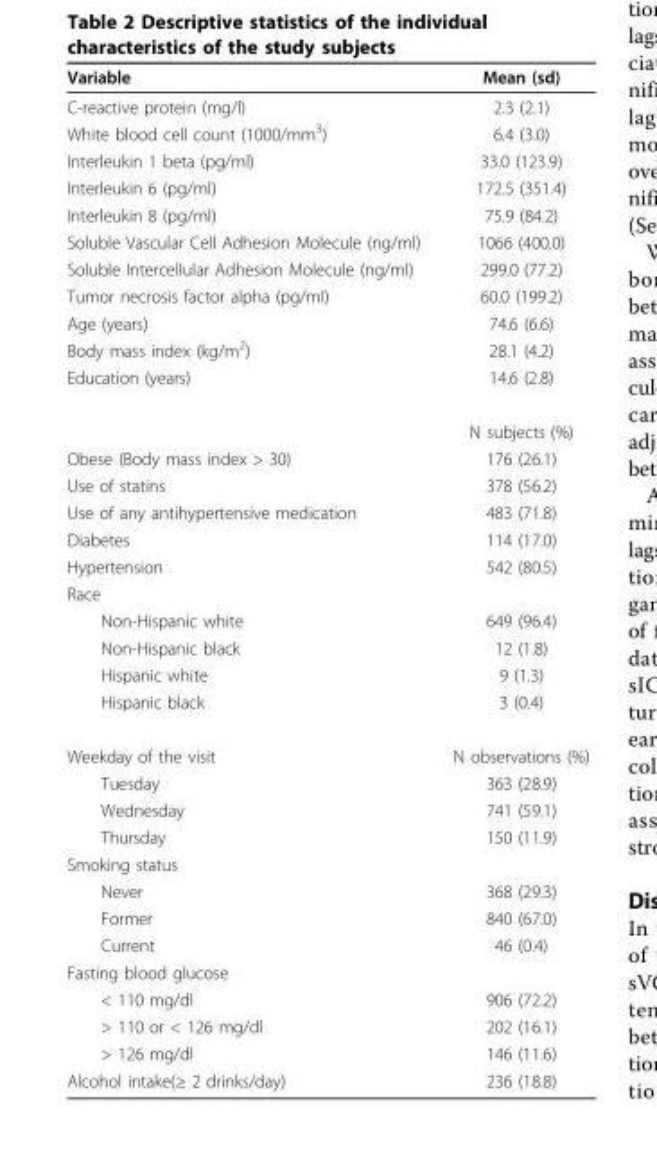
<table><thead><tr><td>Variable</td><td>Mean (sd)</td></tr></thead><tbody><tr><td>C-reactive protein (mg/l)</td><td>2.3 (2.1)</td></tr><tr><td>White blood cell count (1000/mm<sup>3</sup>)</td><td>6.4 (3.0)</td></tr><tr><td>Interleukin 1 beta (pg/ml)</td><td>33.0 (123.9)</td></tr><tr><td>Interleukin 6 (pg/ml)</td><td>172.5 (351.4)</td></tr><tr><td>Interleukin 8 (pg/ml)</td><td>75.9 (84.2)</td></tr><tr><td>Soluble Vascular Cell Adhesion Molecule (ng/ml)</td><td>1066 (400.0)</td></tr><tr><td>Soluble Intercellular Adhesion Molecule (ng/ml)</td><td>299.0 (77.2)</td></tr><tr><td>Tumor necrosis factor alpha (pg/ml)</td><td>60.0 (199.2)</td></tr><tr><td>Age (years)</td><td>74.6 (6.6)</td></tr><tr><td>Body mass index (kg/m<sup>2</sup>)</td><td>28.1 (4.2)</td></tr><tr><td rowspan="2">Education (years)</td><td>14.6 (2.8)</td></tr><tr><td>N subjects (%)</td></tr><tr><td>Obese (Body mass index &gt; 30)</td><td>176 (26.1)</td></tr><tr><td>Use of statins</td><td>378 (56.2)</td></tr><tr><td>Use of any antihypertensive medication</td><td>483 (71.8)</td></tr><tr><td>Diabetes</td><td>114 (17.0)</td></tr><tr><td>Hypertension</td><td>542 (80.5)</td></tr><tr><td colspan="2">Race</td></tr><tr><td>Non-Hispanic white</td><td>649 (96.4)</td></tr><tr><td>Non-Hispanic black</td><td>12 (1.8)</td></tr><tr><td>Hispanic white</td><td>9 (1.3)</td></tr><tr><td>Hispanic black</td><td>3 (0.4)</td></tr><tr><td>Weekday of the visit</td><td>N observations (%)</td></tr><tr><td>Tuesday</td><td>363 (28.9)</td></tr><tr><td>Wednesday</td><td>741 (59.1)</td></tr><tr><td>Thursday</td><td>150 (11.9)</td></tr><tr><td colspan="2">Smoking status</td></tr><tr><td>Never</td><td>368 (29.3)</td></tr><tr><td>Former</td><td>840 (67.0)</td></tr><tr><td>Current</td><td>46 (0.4)</td></tr><tr><td colspan="2">Fasting blood glucose</td></tr><tr><td>&lt; 110 mg/dl</td><td>906 (72.2)</td></tr><tr><td>&gt; 110 or &lt; 126 mg/dl</td><td>202 (16.1)</td></tr><tr><td>&gt; 126 mg/dl</td><td>146 (11.6)</td></tr><tr><td>Alcohol intake(≥ 2 drinks/day)</td><td>236 (18.8)</td></tr></tbody></table>